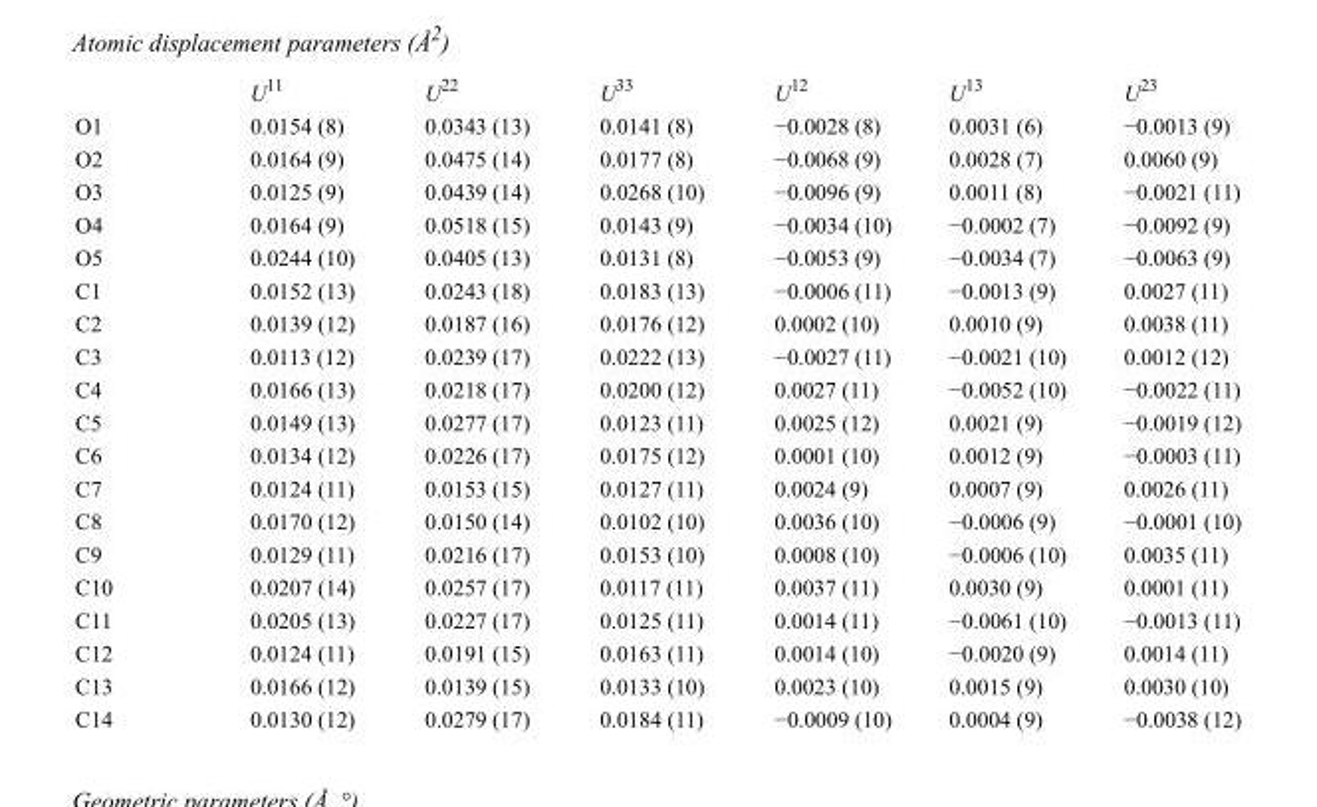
<table><thead><tr><td></td><td>U<sup>11</sup></td><td>U<sup>22</sup></td><td>U<sup>33</sup></td><td>U<sup>12</sup></td><td>U<sup>13</sup></td><td>U<sup>23</sup></td></tr></thead><tbody><tr><td>O1</td><td>0.0154 (8)</td><td>0.0343 (13)</td><td>0.0141 (8)</td><td>−0.0028 (8)</td><td>0.0031 (6)</td><td>−0.0013 (9)</td></tr><tr><td>O2</td><td>0.0164 (9)</td><td>0.0475 (14)</td><td>0.0177 (8)</td><td>−0.0068 (9)</td><td>0.0028 (7)</td><td>0.0060 (9)</td></tr><tr><td>O3</td><td>0.0125 (9)</td><td>0.0439 (14)</td><td>0.0268 (10)</td><td>−0.0096 (9)</td><td>0.0011 (8)</td><td>−0.0021 (11)</td></tr><tr><td>O4</td><td>0.0164 (9)</td><td>0.0518 (15)</td><td>0.0143 (9)</td><td>−0.0034 (10)</td><td>−0.0002 (7)</td><td>−0.0092 (9)</td></tr><tr><td>O5</td><td>0.0244 (10)</td><td>0.0405 (13)</td><td>0.0131 (8)</td><td>−0.0053 (9)</td><td>−0.0034 (7)</td><td>−0.0063 (9)</td></tr><tr><td>C1</td><td>0.0152 (13)</td><td>0.0243 (18)</td><td>0.0183 (13)</td><td>−0.0006 (11)</td><td>−0.0013 (9)</td><td>0.0027 (11)</td></tr><tr><td>C2</td><td>0.0139 (12)</td><td>0.0187 (16)</td><td>0.0176 (12)</td><td>0.0002 (10)</td><td>0.0010 (9)</td><td>0.0038 (11)</td></tr><tr><td>C3</td><td>0.0113 (12)</td><td>0.0239 (17)</td><td>0.0222 (13)</td><td>−0.0027 (11)</td><td>−0.0021 (10)</td><td>0.0012 (12)</td></tr><tr><td>C4</td><td>0.0166 (13)</td><td>0.0218 (17)</td><td>0.0200 (12)</td><td>0.0027 (11)</td><td>−0.0052 (10)</td><td>−0.0022 (11)</td></tr><tr><td>C5</td><td>0.0149 (13)</td><td>0.0277 (17)</td><td>0.0123 (11)</td><td>0.0025 (12)</td><td>0.0021 (9)</td><td>−0.0019 (12)</td></tr><tr><td>C6</td><td>0.0134 (12)</td><td>0.0226 (17)</td><td>0.0175 (12)</td><td>0.0001 (10)</td><td>0.0012 (9)</td><td>−0.0003 (11)</td></tr><tr><td>C7</td><td>0.0124 (11)</td><td>0.0153 (15)</td><td>0.0127 (11)</td><td>0.0024 (9)</td><td>0.0007 (9)</td><td>0.0026 (11)</td></tr><tr><td>C8</td><td>0.0170 (12)</td><td>0.0150 (14)</td><td>0.0102 (10)</td><td>0.0036 (10)</td><td>−0.0006 (9)</td><td>−0.0001 (10)</td></tr><tr><td>C9</td><td>0.0129 (11)</td><td>0.0216 (17)</td><td>0.0153 (10)</td><td>0.0008 (10)</td><td>−0.0006 (10)</td><td>0.0035 (11)</td></tr><tr><td>C10</td><td>0.0207 (14)</td><td>0.0257 (17)</td><td>0.0117 (11)</td><td>0.0037 (11)</td><td>0.0030 (9)</td><td>0.0001 (11)</td></tr><tr><td>C11</td><td>0.0205 (13)</td><td>0.0227 (17)</td><td>0.0125 (11)</td><td>0.0014 (11)</td><td>−0.0061 (10)</td><td>−0.0013 (11)</td></tr><tr><td>C12</td><td>0.0124 (11)</td><td>0.0191 (15)</td><td>0.0163 (11)</td><td>0.0014 (10)</td><td>−0.0020 (9)</td><td>0.0014 (11)</td></tr><tr><td>C13</td><td>0.0166 (12)</td><td>0.0139 (15)</td><td>0.0133 (10)</td><td>0.0023 (10)</td><td>0.0015 (9)</td><td>0.0030 (10)</td></tr><tr><td>C14</td><td>0.0130 (12)</td><td>0.0279 (17)</td><td>0.0184 (11)</td><td>−0.0009 (10)</td><td>0.0004 (9)</td><td>−0.0038 (12)</td></tr></tbody></table>